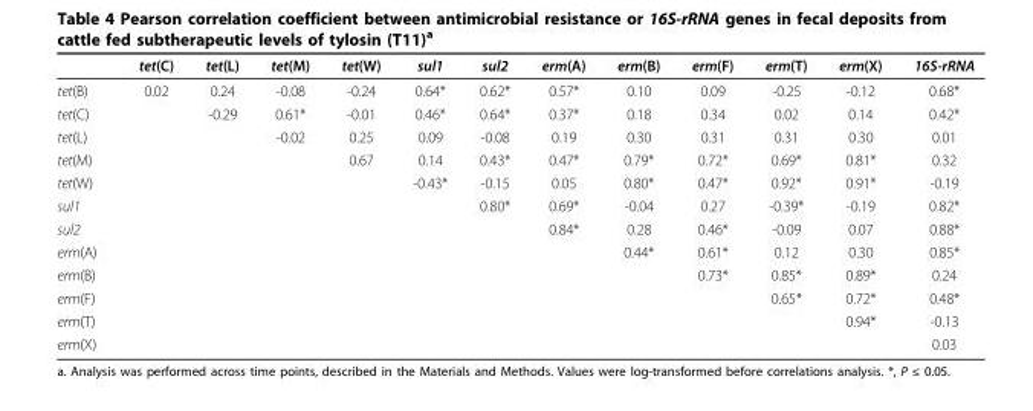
<table><thead><tr><td></td><td>tet(C)</td><td>tet(L)</td><td>tet(M)</td><td>tet(W)</td><td>sul1</td><td>sul2</td><td>erm(A)</td><td>erm(B)</td><td>erm(F)</td><td>erm(T)</td><td>erm(X)</td><td>16S-rRNA</td></tr></thead><tbody><tr><td>tet(B)</td><td>0.02</td><td>0.24</td><td>-0.08</td><td>-0.24</td><td>0.64*</td><td>0.62*</td><td>0.57*</td><td>0.10</td><td>0.09</td><td>-0.25</td><td>-0.12</td><td>0.68*</td></tr><tr><td>tet(C)</td><td></td><td>-0.29</td><td>0.61*</td><td>-0.01</td><td>0.46*</td><td>0.64*</td><td>0.37*</td><td>0.18</td><td>0.34</td><td>0.02</td><td>0.14</td><td>0.42*</td></tr><tr><td>tet(L)</td><td></td><td></td><td>-0.02</td><td>0.25</td><td>0.09</td><td>-0.08</td><td>0.19</td><td>0.30</td><td>0.31</td><td>0.31</td><td>0.30</td><td>0.01</td></tr><tr><td>tet(M)</td><td></td><td></td><td></td><td>0.67</td><td>0.14</td><td>0.43*</td><td>0.47*</td><td>0.79*</td><td>0.72*</td><td>0.69*</td><td>0.81*</td><td>0.32</td></tr><tr><td>tet(W)</td><td></td><td></td><td></td><td></td><td>-0.43*</td><td>-0.15</td><td>0.05</td><td>0.80*</td><td>0.47*</td><td>0.92*</td><td>0.91*</td><td>-0.19</td></tr><tr><td>sul1</td><td></td><td></td><td></td><td></td><td></td><td>0.80*</td><td>0.69*</td><td>-0.04</td><td>0.27</td><td>-0.39*</td><td>-0.19</td><td>0.82*</td></tr><tr><td>sul2</td><td></td><td></td><td></td><td></td><td></td><td></td><td>0.84*</td><td>0.28</td><td>0.46*</td><td>-0.09</td><td>0.07</td><td>0.88*</td></tr><tr><td>erm(A)</td><td></td><td></td><td></td><td></td><td></td><td></td><td></td><td>0.44*</td><td>0.61*</td><td>0.12</td><td>0.30</td><td>0.85*</td></tr><tr><td>erm(B)</td><td></td><td></td><td></td><td></td><td></td><td></td><td></td><td></td><td>0.73*</td><td>0.85*</td><td>0.89*</td><td>0.24</td></tr><tr><td>erm(F)</td><td></td><td></td><td></td><td></td><td></td><td></td><td></td><td></td><td></td><td>0.65*</td><td>0.72*</td><td>0.48*</td></tr><tr><td>erm(T)</td><td></td><td></td><td></td><td></td><td></td><td></td><td></td><td></td><td></td><td></td><td>0.94*</td><td>-0.13</td></tr><tr><td>erm(X)</td><td></td><td></td><td></td><td></td><td></td><td></td><td></td><td></td><td></td><td></td><td></td><td>0.03</td></tr></tbody></table>